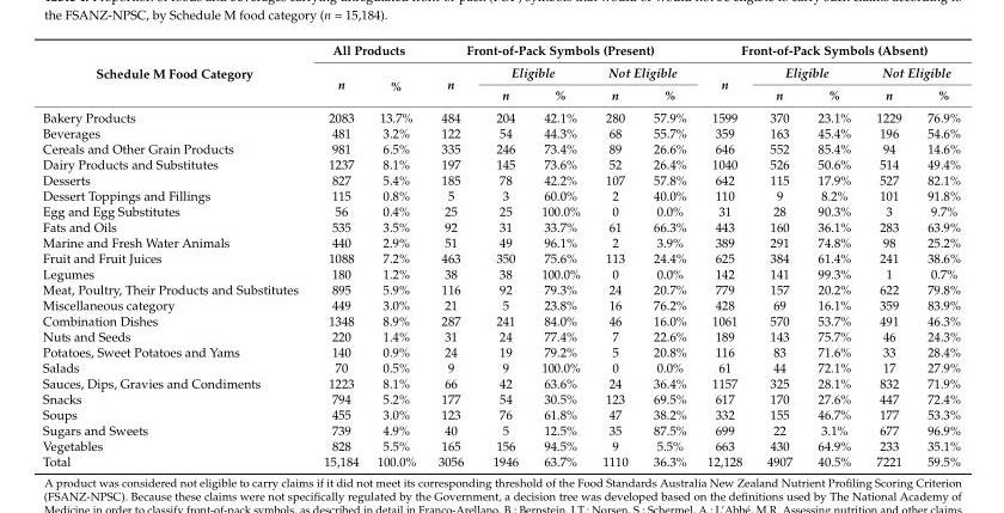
<table><thead><tr><td rowspan="3">Schedule M Food Category</td><td colspan="2">All Products</td><td colspan="5">Front-of-Pack Symbols (Present)</td><td colspan="5">Front-of-Pack Symbols (Absent)</td></tr><tr><td rowspan="2">n</td><td rowspan="2">%</td><td rowspan="2">n</td><td colspan="2">Eligible</td><td colspan="2">Not Eligible</td><td rowspan="2">n</td><td colspan="2">Eligible</td><td colspan="2">Not Eligible</td></tr><tr><td>n</td><td>%</td><td>n</td><td>%</td><td>n</td><td>%</td><td>n</td><td>%</td></tr></thead><tbody><tr><td>Bakery Products</td><td>2083</td><td>13.7%</td><td>484</td><td>204</td><td>42.1%</td><td>280</td><td>57.9%</td><td>1599</td><td>370</td><td>23.1%</td><td>1229</td><td>76.9%</td></tr><tr><td>Beverages</td><td>481</td><td>3.2%</td><td>122</td><td>54</td><td>44.3%</td><td>68</td><td>55.7%</td><td>359</td><td>163</td><td>45.4%</td><td>196</td><td>54.6%</td></tr><tr><td>Cereals and Other Grain Products</td><td>981</td><td>6.5%</td><td>335</td><td>246</td><td>73.4%</td><td>89</td><td>26.6%</td><td>646</td><td>552</td><td>85.4%</td><td>94</td><td>14.6%</td></tr><tr><td>Dairy Products and Substitutes</td><td>1237</td><td>8.1%</td><td>197</td><td>145</td><td>73.6%</td><td>52</td><td>26.4%</td><td>1040</td><td>526</td><td>50.6%</td><td>514</td><td>49.4%</td></tr><tr><td>Desserts</td><td>827</td><td>5.4%</td><td>185</td><td>78</td><td>42.2%</td><td>107</td><td>57.8%</td><td>642</td><td>115</td><td>17.9%</td><td>527</td><td>82.1%</td></tr><tr><td>Dessert Toppings and Fillings</td><td>115</td><td>0.8%</td><td>5</td><td>3</td><td>60.0%</td><td>2</td><td>40.0%</td><td>110</td><td>9</td><td>8.2%</td><td>101</td><td>91.8%</td></tr><tr><td>Egg and Egg Substitutes</td><td>56</td><td>0.4%</td><td>25</td><td>25</td><td>100.0%</td><td>0</td><td>0.0%</td><td>31</td><td>28</td><td>90.3%</td><td>3</td><td>9.7%</td></tr><tr><td>Fats and Oils</td><td>535</td><td>3.5%</td><td>92</td><td>31</td><td>33.7%</td><td>61</td><td>66.3%</td><td>443</td><td>160</td><td>36.1%</td><td>283</td><td>63.9%</td></tr><tr><td>Marine and Fresh Water Animals</td><td>440</td><td>2.9%</td><td>51</td><td>49</td><td>96.1%</td><td>2</td><td>3.9%</td><td>389</td><td>291</td><td>74.8%</td><td>98</td><td>25.2%</td></tr><tr><td>Fruit and Fruit Juices</td><td>1088</td><td>7.2%</td><td>463</td><td>350</td><td>75.6%</td><td>113</td><td>24.4%</td><td>625</td><td>384</td><td>61.4%</td><td>241</td><td>38.6%</td></tr><tr><td>Legumes</td><td>180</td><td>1.2%</td><td>38</td><td>38</td><td>100.0%</td><td>0</td><td>0.0%</td><td>142</td><td>141</td><td>99.3%</td><td>1</td><td>0.7%</td></tr><tr><td>Meat, Poultry, Their Products and Substitutes</td><td>895</td><td>5.9%</td><td>116</td><td>92</td><td>79.3%</td><td>24</td><td>20.7%</td><td>779</td><td>157</td><td>20.2%</td><td>622</td><td>79.8%</td></tr><tr><td>Miscellaneous category</td><td>449</td><td>3.0%</td><td>21</td><td>5</td><td>23.8%</td><td>16</td><td>76.2%</td><td>428</td><td>69</td><td>16.1%</td><td>359</td><td>83.9%</td></tr><tr><td>Combination Dishes</td><td>1348</td><td>8.9%</td><td>287</td><td>241</td><td>84.0%</td><td>46</td><td>16.0%</td><td>1061</td><td>570</td><td>53.7%</td><td>491</td><td>46.3%</td></tr><tr><td>Nuts and Seeds</td><td>220</td><td>1.4%</td><td>31</td><td>24</td><td>77.4%</td><td>7</td><td>22.6%</td><td>189</td><td>143</td><td>75.7%</td><td>46</td><td>24.3%</td></tr><tr><td>Potatoes, Sweet Potatoes and Yams</td><td>140</td><td>0.9%</td><td>24</td><td>19</td><td>79.2%</td><td>5</td><td>20.8%</td><td>116</td><td>83</td><td>71.6%</td><td>33</td><td>28.4%</td></tr><tr><td>Salads</td><td>70</td><td>0.5%</td><td>9</td><td>9</td><td>100.0%</td><td>0</td><td>0.0%</td><td>61</td><td>44</td><td>72.1%</td><td>17</td><td>27.9%</td></tr><tr><td>Sauces, Dips, Gravies and Condiments</td><td>1223</td><td>8.1%</td><td>66</td><td>42</td><td>63.6%</td><td>24</td><td>36.4%</td><td>1157</td><td>325</td><td>28.1%</td><td>832</td><td>71.9%</td></tr><tr><td>Snacks</td><td>794</td><td>5.2%</td><td>177</td><td>54</td><td>30.5%</td><td>123</td><td>69.5%</td><td>617</td><td>170</td><td>27.6%</td><td>447</td><td>72.4%</td></tr><tr><td>Soups</td><td>455</td><td>3.0%</td><td>123</td><td>76</td><td>61.8%</td><td>47</td><td>38.2%</td><td>332</td><td>155</td><td>46.7%</td><td>177</td><td>53.3%</td></tr><tr><td>Sugars and Sweets</td><td>739</td><td>4.9%</td><td>40</td><td>5</td><td>12.5%</td><td>35</td><td>87.5%</td><td>699</td><td>22</td><td>3.1%</td><td>677</td><td>96.9%</td></tr><tr><td>Vegetables</td><td>828</td><td>5.5%</td><td>165</td><td>156</td><td>94.5%</td><td>9</td><td>5.5%</td><td>663</td><td>430</td><td>64.9%</td><td>233</td><td>35.1%</td></tr><tr><td>Total</td><td>15,184</td><td>100.0%</td><td>3056</td><td>1946</td><td>63.7%</td><td>1110</td><td>36.3%</td><td>12,128</td><td>4907</td><td>40.5%</td><td>7221</td><td>59.5%</td></tr></tbody></table>